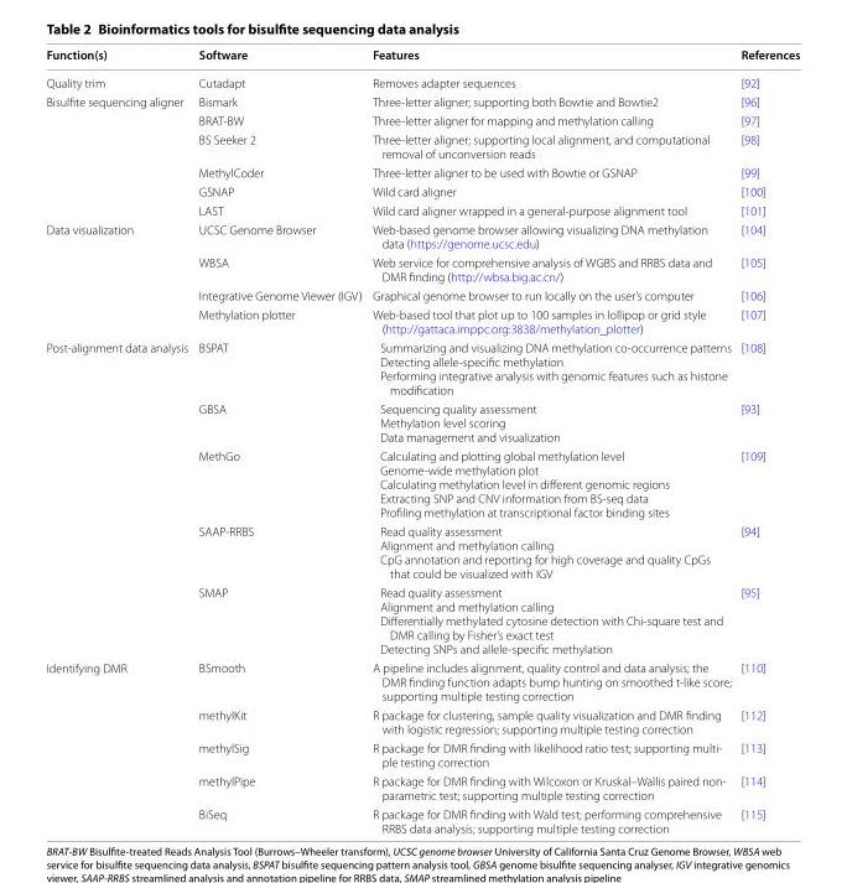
<table><thead><tr><td>Function(s)</td><td>Software</td><td>Features</td><td>References</td></tr></thead><tbody><tr><td>Quality trim</td><td>Cutadapt</td><td>Removes adapter sequences</td><td>[92]</td></tr><tr><td rowspan="6">Bisulfite sequencing aligner</td><td>Bismark</td><td>Three‑letter aligner; supporting both Bowtie and Bowtie2</td><td>[96]</td></tr><tr><td>BRAT‑BW</td><td>Three‑letter aligner for mapping and methylation calling</td><td>[97]</td></tr><tr><td>BS Seeker 2</td><td>Three‑letter aligner; supporting local alignment, and computational removal of unconversion reads</td><td>[98]</td></tr><tr><td>MethylCoder</td><td>Three‑letter aligner to be used with Bowtie or GSNAP</td><td>[99]</td></tr><tr><td>GSNAP</td><td>Wild card aligner</td><td>[100]</td></tr><tr><td>LAST</td><td>Wild card aligner wrapped in a general‑purpose alignment tool</td><td>[101]</td></tr><tr><td rowspan="4">Data visualization</td><td>UCSC Genome Browser</td><td>Web‑based genome browser allowing visualizing DNA methylation data (https://genome.ucsc.edu)</td><td>[104]</td></tr><tr><td>WBSA</td><td>Web service for comprehensive analysis of WGBS and RRBS data and DMR finding (http://wbsa.big.ac.cn/)</td><td>[105]</td></tr><tr><td>Integrative Genome Viewer (IGV)</td><td>Graphical genome browser to run locally on the user’s computer</td><td>[106]</td></tr><tr><td>Methylation plotter</td><td>Web‑based tool that plot up to 100 samples in lollipop or grid style (http://gattaca.imppc.org:3838/methylation_plotter)</td><td>[107]</td></tr><tr><td rowspan="5">Post‑alignment data analysis</td><td>BSPAT</td><td>Summarizing and visualizing DNA methylation co‑occurrence patterns Detecting allele‑specific methylation Performing integrative analysis with genomic features such as histone modification</td><td>[108]</td></tr><tr><td>GBSA</td><td>Sequencing quality assessment Methylation level scoring Data management and visualization</td><td>[93]</td></tr><tr><td>MethGo</td><td>Calculating and plotting global methylation level Genome‑wide methylation plot Calculating methylation level in different genomic regions Extracting SNP and CNV information from BS‑seq data Profiling methylation at transcriptional factor binding sites</td><td>[109]</td></tr><tr><td>SAAP‑RRBS</td><td>Read quality assessment Alignment and methylation calling CpG annotation and reporting for high coverage and quality CpGs that could be visualized with IGV</td><td>[94]</td></tr><tr><td>SMAP</td><td>Read quality assessment Alignment and methylation calling Differentially methylated cytosine detection with Chi‑square test and DMR calling by Fisher’s exact test Detecting SNPs and allele‑specific methylation</td><td>[95]</td></tr><tr><td rowspan="5">Identifying DMR</td><td>BSmooth</td><td>A pipeline includes alignment, quality control and data analysis; the DMR finding function adapts bump hunting on smoothed t‑like score; supporting multiple testing correction</td><td>[110]</td></tr><tr><td>methylKit</td><td>R package for clustering, sample quality visualization and DMR finding with logistic regression; supporting multiple testing correction</td><td>[112]</td></tr><tr><td>methylSig</td><td>R package for DMR finding with likelihood ratio test; supporting multi‑ ple testing correction</td><td>[113]</td></tr><tr><td>methylPipe</td><td>R package for DMR finding with Wilcoxon or Kruskal–Wallis paired non‑ parametric test; supporting multiple testing correction</td><td>[114]</td></tr><tr><td>BiSeq</td><td>R package for DMR finding with Wald test; performing comprehensive RRBS data analysis; supporting multiple testing correction</td><td>[115]</td></tr></tbody></table>